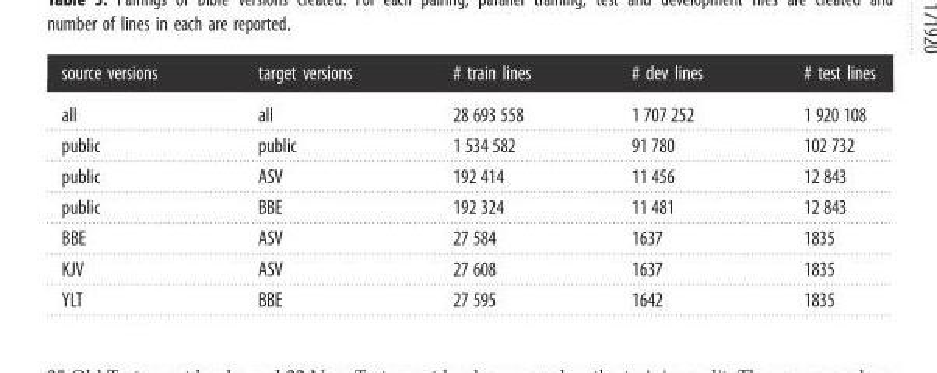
<table><thead><tr><td>source versions</td><td>target versions</td><td># train lines</td><td># dev lines</td><td># test lines</td></tr></thead><tbody><tr><td>all</td><td>all</td><td>28 693 558</td><td>1 707 252</td><td>1 920 108</td></tr><tr><td>public</td><td>public</td><td>1 534 582</td><td>91 780</td><td>102 732</td></tr><tr><td>public</td><td>ASV</td><td>192 414</td><td>11 456</td><td>12 843</td></tr><tr><td>public</td><td>BBE</td><td>192 324</td><td>11 481</td><td>12 843</td></tr><tr><td>BBE</td><td>ASV</td><td>27 584</td><td>1637</td><td>1835</td></tr><tr><td>KJV</td><td>ASV</td><td>27 608</td><td>1637</td><td>1835</td></tr><tr><td>YLT</td><td>BBE</td><td>27 595</td><td>1642</td><td>1835</td></tr></tbody></table>